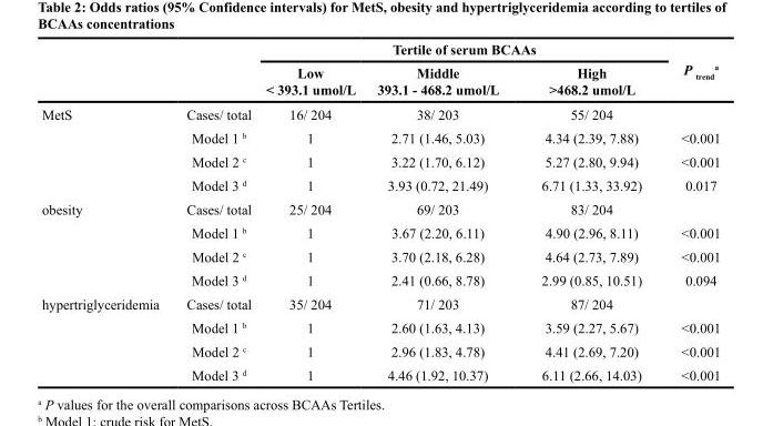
<table><thead><tr><td rowspan="2"></td><td rowspan="2"></td><td colspan="3">Tertile of serum BCAAs</td><td rowspan="2">P <sub>trend</sub> <sup>a</sup></td></tr><tr><td>Low &lt; 393.1 umol/L</td><td>Middle 393.1 - 468.2 umol/L</td><td>High &gt;468.2 umol/L</td></tr></thead><tbody><tr><td rowspan="4">MetS</td><td>Cases/ total</td><td>16/ 204</td><td>38/ 203</td><td>55/ 204</td><td></td></tr><tr><td>Model 1 <sup>b</sup></td><td>1</td><td>2.71 (1.46, 5.03)</td><td>4.34 (2.39, 7.88)</td><td>&lt;0.001</td></tr><tr><td>Model 2 <sup>c</sup></td><td>1</td><td>3.22 (1.70, 6.12)</td><td>5.27 (2.80, 9.94)</td><td>&lt;0.001</td></tr><tr><td>Model 3 <sup>d</sup></td><td>1</td><td>3.93 (0.72, 21.49)</td><td>6.71 (1.33, 33.92)</td><td>0.017</td></tr><tr><td rowspan="4">obesity</td><td>Cases/ total</td><td>25/ 204</td><td>69/ 203</td><td>83/ 204</td><td></td></tr><tr><td>Model 1 <sup>b</sup></td><td>1</td><td>3.67 (2.20, 6.11)</td><td>4.90 (2.96, 8.11)</td><td>&lt;0.001</td></tr><tr><td>Model 2 <sup>c</sup></td><td>1</td><td>3.70 (2.18, 6.28)</td><td>4.64 (2.73, 7.89)</td><td>&lt;0.001</td></tr><tr><td>Model 3 <sup>d</sup></td><td>1</td><td>2.41 (0.66, 8.78)</td><td>2.99 (0.85, 10.51)</td><td>0.094</td></tr><tr><td rowspan="4">hypertriglyceridemia</td><td>Cases/ total</td><td>35/ 204</td><td>71/ 203</td><td>87/ 204</td><td></td></tr><tr><td>Model 1 <sup>b</sup></td><td>1</td><td>2.60 (1.63, 4.13)</td><td>3.59 (2.27, 5.67)</td><td>&lt;0.001</td></tr><tr><td>Model 2 <sup>c</sup></td><td>1</td><td>2.96 (1.83, 4.78)</td><td>4.41 (2.69, 7.20)</td><td>&lt;0.001</td></tr><tr><td>Model 3 <sup>d</sup></td><td>1</td><td>4.46 (1.92, 10.37)</td><td>6.11 (2.66, 14.03)</td><td>&lt;0.001</td></tr></tbody></table>